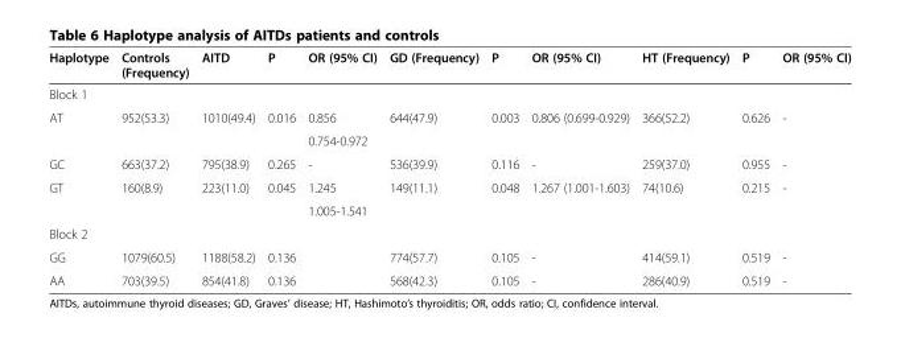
<table><thead><tr><td>Haplotype</td><td>Controls (Frequency)</td><td>AITD</td><td>P</td><td>OR (95% CI)</td><td>GD (Frequency)</td><td>P</td><td>OR (95% CI)</td><td>HT (Frequency)</td><td>P</td><td>OR (95% CI)</td></tr></thead><tbody><tr><td colspan="11">Block 1</td></tr><tr><td rowspan="2">AT</td><td rowspan="2">952(53.3)</td><td rowspan="2">1010(49.4)</td><td rowspan="2">0.016</td><td>0.856</td><td rowspan="2">644(47.9)</td><td rowspan="2">0.003</td><td rowspan="2">0.806 (0.699-0.929)</td><td rowspan="2">366(52.2)</td><td rowspan="2">0.626</td><td rowspan="2">-</td></tr><tr><td>0.754-0.972</td></tr><tr><td>GC</td><td>663(37.2)</td><td>795(38.9)</td><td>0.265</td><td>-</td><td>536(39.9)</td><td>0.116</td><td>-</td><td>259(37.0)</td><td>0.955</td><td>-</td></tr><tr><td rowspan="2">GT</td><td rowspan="2">160(8.9)</td><td rowspan="2">223(11.0)</td><td rowspan="2">0.045</td><td>1.245</td><td rowspan="2">149(11.1)</td><td rowspan="2">0.048</td><td rowspan="2">1.267 (1.001-1.603)</td><td rowspan="2">74(10.6)</td><td rowspan="2">0.215</td><td rowspan="2">-</td></tr><tr><td>1.005-1.541</td></tr><tr><td colspan="11">Block 2</td></tr><tr><td>GG</td><td>1079(60.5)</td><td>1188(58.2)</td><td>0.136</td><td></td><td>774(57.7)</td><td>0.105</td><td>-</td><td>414(59.1)</td><td>0.519</td><td>-</td></tr><tr><td>AA</td><td>703(39.5)</td><td>854(41.8)</td><td>0.136</td><td></td><td>568(42.3)</td><td>0.105</td><td>-</td><td>286(40.9)</td><td>0.519</td><td>-</td></tr></tbody></table>